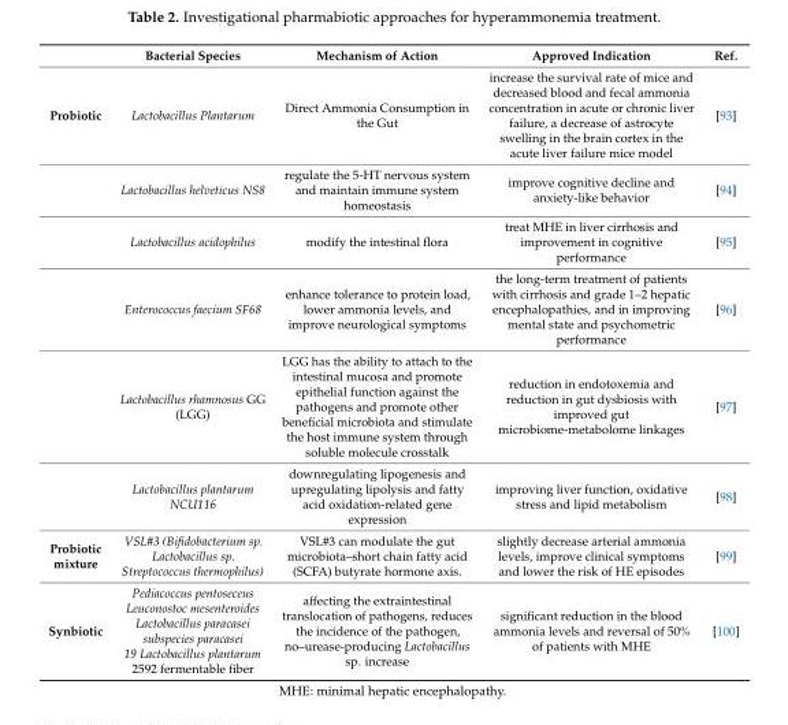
<table><thead><tr><td></td><td>Bacterial Species</td><td>Mechanism of Action</td><td>Approved Indication</td><td>Ref.</td></tr></thead><tbody><tr><td rowspan="6">Probiotic</td><td>Lactobacillus Plantarum</td><td>Direct Ammonia Consumption in the Gut</td><td>increase the survival rate of mice and decreased blood and fecal ammonia concentration in acute or chronic liver failure, a decrease of astrocyte swelling in the brain cortex in the acute liver failure mice model</td><td>[93]</td></tr><tr><td>Lactobacillus helveticus NS8</td><td>regulate the 5-HT nervous system and maintain immune system homeostasis</td><td>improve cognitive decline and anxiety-like behavior</td><td>[94]</td></tr><tr><td>Lactobacillus acidophilus</td><td>modify the intestinal flora</td><td>treat MHE in liver cirrhosis and improvement in cognitive performance</td><td>[95]</td></tr><tr><td>Enterococcus faecium SF68</td><td>enhance tolerance to protein load, lower ammonia levels, and improve neurological symptoms</td><td>the long-term treatment of patients with cirrhosis and grade 1–2 hepatic encephalopathies, and in improving mental state and psychometric performance</td><td>[96]</td></tr><tr><td>Lactobacillus rhamnosus GG (LGG)</td><td>LGG has the ability to attach to the intestinal mucosa and promote epithelial function against the pathogens and promote other beneficial microbiota and stimulate the host immune system through soluble molecule crosstalk</td><td>reduction in endotoxemia and reduction in gut dysbiosis with improved gut microbiome-metabolome linkages</td><td>[97]</td></tr><tr><td>Lactobacillus plantarum NCU116</td><td>downregulating lipogenesis and upregulating lipolysis and fatty acid oxidation-related gene expression</td><td>improving liver function, oxidative stress and lipid metabolism</td><td>[98]</td></tr><tr><td>Probiotic mixture</td><td>VSL#3 (Bifidobacterium sp. Lactobacillus sp. Streptococcus thermophilus)</td><td>VSL#3 can modulate the gut microbiota–short chain fatty acid (SCFA) butyrate hormone axis.</td><td>slightly decrease arterial ammonia levels, improve clinical symptoms and lower the risk of HE episodes</td><td>[99]</td></tr><tr><td>Synbiotic</td><td>Pediacoccus pentoseceus Leuconostoc mesenteroides Lactobacillus paracasei subspecies paracasei 19 Lactobacillus plantarum 2592 fermentable fiber</td><td>affecting the extraintestinal translocation of pathogens, reduces the incidence of the pathogen, no–urease-producing Lactobacillus sp. increase</td><td>significant reduction in the blood ammonia levels and reversal of 50% of patients with MHE</td><td>[100]</td></tr></tbody></table>